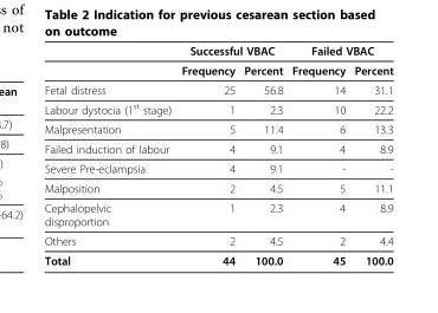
<table><thead><tr><td rowspan="2"></td><td colspan="2">Successful VBAC</td><td colspan="2">Failed VBAC</td></tr><tr><td>Frequency</td><td>Percent</td><td>Frequency</td><td>Percent</td></tr></thead><tbody><tr><td>Fetal distress</td><td>25</td><td>56.8</td><td>14</td><td>31.1</td></tr><tr><td>Labour dystocia (1<sup>st</sup> stage)</td><td>1</td><td>2.3</td><td>10</td><td>22.2</td></tr><tr><td>Malpresentation</td><td>5</td><td>11.4</td><td>6</td><td>13.3</td></tr><tr><td>Failed induction of labour</td><td>4</td><td>9.1</td><td>4</td><td>8.9</td></tr><tr><td>Severe Pre-eclampsia</td><td>4</td><td>9.1</td><td>-</td><td>-</td></tr><tr><td>Malposition</td><td>2</td><td>4.5</td><td>5</td><td>11.1</td></tr><tr><td>Cephalopelvic disproportion</td><td>1</td><td>2.3</td><td>4</td><td>8.9</td></tr><tr><td>Others</td><td>2</td><td>4.5</td><td>2</td><td>4.4</td></tr><tr><td>Total</td><td>44</td><td>100.0</td><td>45</td><td>100.0</td></tr></tbody></table>